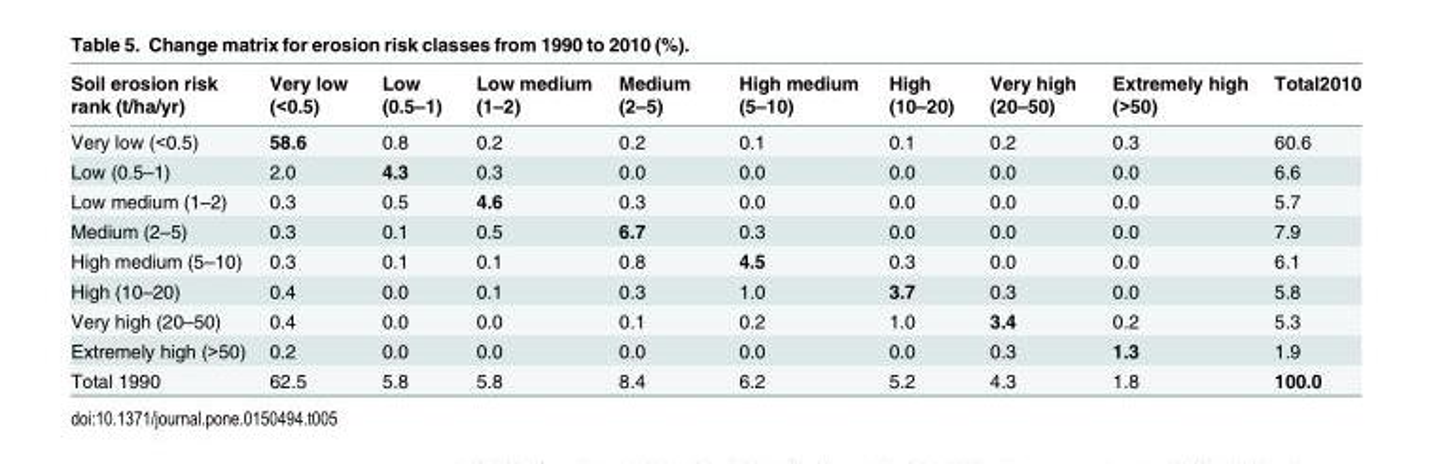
<table><thead><tr><td>Soil erosion risk rank (t/ha/yr)</td><td>Very low (&lt;0.5)</td><td>Low (0.5–1)</td><td>Low medium (1–2)</td><td>Medium (2–5)</td><td>High medium (5–10)</td><td>High (10–20)</td><td>Very high (20–50)</td><td>Extremely high (&gt;50)</td><td>Total2010</td></tr></thead><tbody><tr><td>Very low (&lt;0.5)</td><td>58.6</td><td>0.8</td><td>0.2</td><td>0.2</td><td>0.1</td><td>0.1</td><td>0.2</td><td>0.3</td><td>60.6</td></tr><tr><td>Low (0.5–1)</td><td>2.0</td><td>4.3</td><td>0.3</td><td>0.0</td><td>0.0</td><td>0.0</td><td>0.0</td><td>0.0</td><td>6.6</td></tr><tr><td>Low medium (1–2)</td><td>0.3</td><td>0.5</td><td>4.6</td><td>0.3</td><td>0.0</td><td>0.0</td><td>0.0</td><td>0.0</td><td>5.7</td></tr><tr><td>Medium (2–5)</td><td>0.3</td><td>0.1</td><td>0.5</td><td>6.7</td><td>0.3</td><td>0.0</td><td>0.0</td><td>0.0</td><td>7.9</td></tr><tr><td>High medium (5–10)</td><td>0.3</td><td>0.1</td><td>0.1</td><td>0.8</td><td>4.5</td><td>0.3</td><td>0.0</td><td>0.0</td><td>6.1</td></tr><tr><td>High (10–20)</td><td>0.4</td><td>0.0</td><td>0.1</td><td>0.3</td><td>1.0</td><td>3.7</td><td>0.3</td><td>0.0</td><td>5.8</td></tr><tr><td>Very high (20–50)</td><td>0.4</td><td>0.0</td><td>0.0</td><td>0.1</td><td>0.2</td><td>1.0</td><td>3.4</td><td>0.2</td><td>5.3</td></tr><tr><td>Extremely high (&gt;50)</td><td>0.2</td><td>0.0</td><td>0.0</td><td>0.0</td><td>0.0</td><td>0.0</td><td>0.3</td><td>1.3</td><td>1.9</td></tr><tr><td>Total 1990</td><td>62.5</td><td>5.8</td><td>5.8</td><td>8.4</td><td>6.2</td><td>5.2</td><td>4.3</td><td>1.8</td><td>100.0</td></tr></tbody></table>